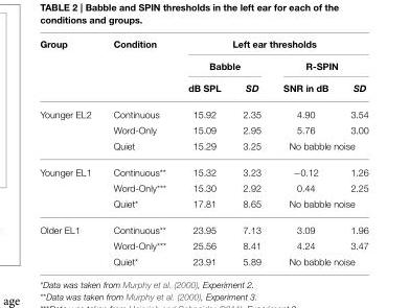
<table><thead><tr><td rowspan="3">Group</td><td rowspan="3">Condition</td><td colspan="4">Left ear thresholds</td></tr><tr><td colspan="2">Babble</td><td colspan="2">R-SPIN</td></tr><tr><td>dB SPL</td><td>SD</td><td>SNR in dB</td><td>SD</td></tr></thead><tbody><tr><td rowspan="3">Younger EL2</td><td>Continuous</td><td>15.92</td><td>2.35</td><td>4.90</td><td>3.54</td></tr><tr><td>Word-Only</td><td>15.09</td><td>2.95</td><td>5.76</td><td>3.00</td></tr><tr><td>Quiet</td><td>15.29</td><td>3.25</td><td colspan="2">No babble noise</td></tr><tr><td rowspan="3">Younger EL1</td><td>Continuous**</td><td>15.32</td><td>3.23</td><td>−0.12</td><td>1.26</td></tr><tr><td>Word-Only***</td><td>15.30</td><td>2.92</td><td>0.44</td><td>2.25</td></tr><tr><td>Quiet*</td><td>17.81</td><td>8.65</td><td colspan="2">No babble noise</td></tr><tr><td rowspan="3">Older EL1</td><td>Continuous**</td><td>23.95</td><td>7.13</td><td>3.09</td><td>1.96</td></tr><tr><td>Word-Only***</td><td>25.56</td><td>8.41</td><td>4.24</td><td>3.47</td></tr><tr><td>Quiet*</td><td>23.91</td><td>5.89</td><td colspan="2">No babble noise</td></tr></tbody></table>